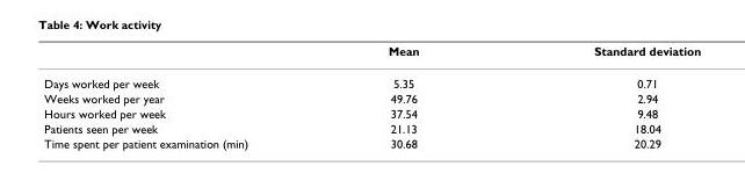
<table><thead><tr><td></td><td>Mean</td><td>Standard deviation</td></tr></thead><tbody><tr><td>Days worked per week</td><td>5.35</td><td>0.71</td></tr><tr><td>Weeks worked per year</td><td>49.76</td><td>2.94</td></tr><tr><td>Hours worked per week</td><td>37.54</td><td>9.48</td></tr><tr><td>Patients seen per week</td><td>21.13</td><td>18.04</td></tr><tr><td>Time spent per patient examination (min)</td><td>30.68</td><td>20.29</td></tr></tbody></table>